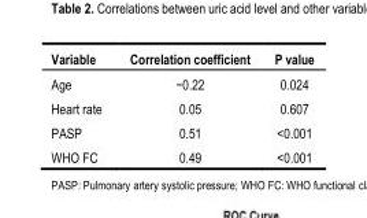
<table><thead><tr><td>Variable</td><td>Correlation coefficient</td><td>P value</td></tr></thead><tbody><tr><td>Age</td><td>−0.22</td><td>0.024</td></tr><tr><td>Heart rate</td><td>0.05</td><td>0.607</td></tr><tr><td>PASP</td><td>0.51</td><td>&lt;0.001</td></tr><tr><td>WHO FC</td><td>0.49</td><td>&lt;0.001</td></tr></tbody></table>